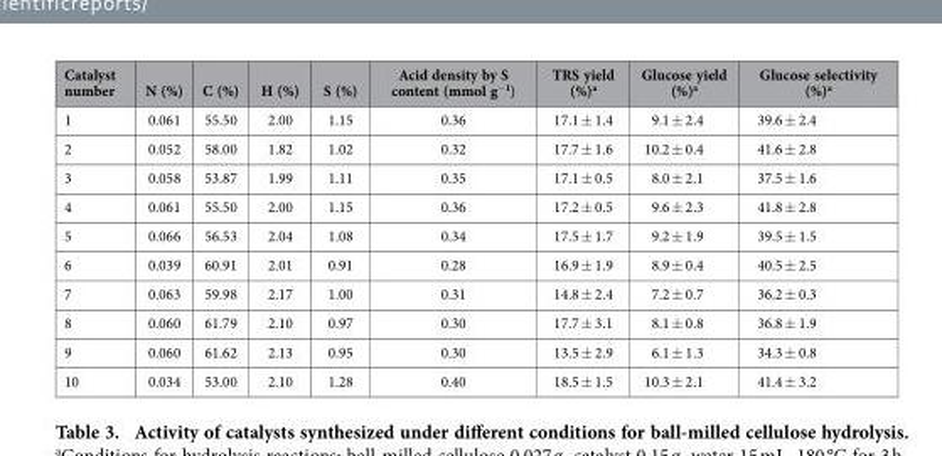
<table><thead><tr><td>Catalyst number</td><td>N (%)</td><td>C (%)</td><td>H (%)</td><td>S (%)</td><td>Acid density by S content (mmol g<sup>−1</sup>)</td><td>TRS yield (%)<sup>a</sup></td><td>Glucose yield (%)<sup>a</sup></td><td>Glucose selectivity (%)<sup>a</sup></td></tr></thead><tbody><tr><td>1</td><td>0.061</td><td>55.50</td><td>2.00</td><td>1.15</td><td>0.36</td><td>17.1 ± 1.4</td><td>9.1 ± 2.4</td><td>39.6 ± 2.4</td></tr><tr><td>2</td><td>0.052</td><td>58.00</td><td>1.82</td><td>1.02</td><td>0.32</td><td>17.7 ± 1.6</td><td>10.2 ± 0.4</td><td>41.6 ± 2.8</td></tr><tr><td>3</td><td>0.058</td><td>53.87</td><td>1.99</td><td>1.11</td><td>0.35</td><td>17.1 ± 0.5</td><td>8.0 ± 2.1</td><td>37.5 ± 1.6</td></tr><tr><td>4</td><td>0.061</td><td>55.50</td><td>2.00</td><td>1.15</td><td>0.36</td><td>17.2 ± 0.5</td><td>9.6 ± 2.3</td><td>41.8 ± 2.8</td></tr><tr><td>5</td><td>0.066</td><td>56.53</td><td>2.04</td><td>1.08</td><td>0.34</td><td>17.5 ± 1.7</td><td>9.2 ± 1.9</td><td>39.5 ± 1.5</td></tr><tr><td>6</td><td>0.039</td><td>60.91</td><td>2.01</td><td>0.91</td><td>0.28</td><td>16.9 ± 1.9</td><td>8.9 ± 0.4</td><td>40.5 ± 2.5</td></tr><tr><td>7</td><td>0.063</td><td>59.98</td><td>2.17</td><td>1.00</td><td>0.31</td><td>14.8 ± 2.4</td><td>7.2 ± 0.7</td><td>36.2 ± 0.3</td></tr><tr><td>8</td><td>0.060</td><td>61.79</td><td>2.10</td><td>0.97</td><td>0.30</td><td>17.7 ± 3.1</td><td>8.1 ± 0.8</td><td>36.8 ± 1.9</td></tr><tr><td>9</td><td>0.060</td><td>61.62</td><td>2.13</td><td>0.95</td><td>0.30</td><td>13.5 ± 2.9</td><td>6.1 ± 1.3</td><td>34.3 ± 0.8</td></tr><tr><td>10</td><td>0.034</td><td>53.00</td><td>2.10</td><td>1.28</td><td>0.40</td><td>18.5 ± 1.5</td><td>10.3 ± 2.1</td><td>41.4 ± 3.2</td></tr></tbody></table>